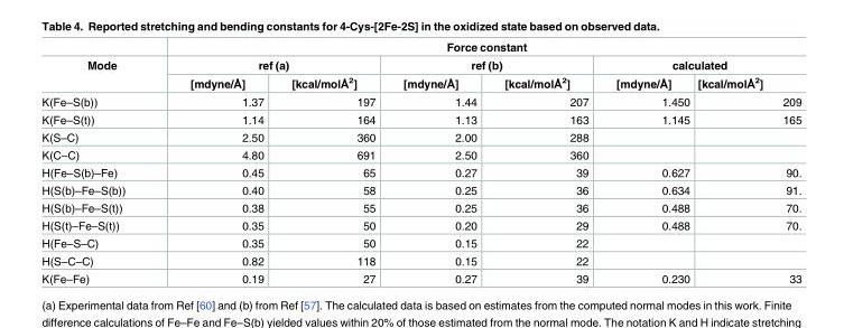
<table><thead><tr><td rowspan="3">Mode</td><td colspan="6">Force constant</td></tr><tr><td colspan="2">ref (a)</td><td colspan="2">ref (b)</td><td colspan="2">calculated</td></tr><tr><td>[mdyne/Å]</td><td>[kcal/molÅ<sup>2</sup>]</td><td>[mdyne/Å]</td><td>[kcal/molÅ<sup>2</sup>]</td><td>[mdyne/Å]</td><td>[kcal/molÅ<sup>2</sup>]</td></tr></thead><tbody><tr><td>K(Fe–S(b))</td><td>1.37</td><td>197</td><td>1.44</td><td>207</td><td>1.450</td><td>209</td></tr><tr><td>K(Fe–S(t))</td><td>1.14</td><td>164</td><td>1.13</td><td>163</td><td>1.145</td><td>165</td></tr><tr><td>K(S–C)</td><td>2.50</td><td>360</td><td>2.00</td><td>288</td><td></td><td></td></tr><tr><td>K(C–C)</td><td>4.80</td><td>691</td><td>2.50</td><td>360</td><td></td><td></td></tr><tr><td>H(Fe–S(b)–Fe)</td><td>0.45</td><td>65</td><td>0.27</td><td>39</td><td>0.627</td><td>90.</td></tr><tr><td>H(S(b)–Fe–S(b))</td><td>0.40</td><td>58</td><td>0.25</td><td>36</td><td>0.634</td><td>91.</td></tr><tr><td>H(S(b)–Fe–S(t))</td><td>0.38</td><td>55</td><td>0.25</td><td>36</td><td>0.488</td><td>70.</td></tr><tr><td>H(S(t)–Fe–S(t))</td><td>0.35</td><td>50</td><td>0.20</td><td>29</td><td>0.488</td><td>70.</td></tr><tr><td>H(Fe–S–C)</td><td>0.35</td><td>50</td><td>0.15</td><td>22</td><td></td><td></td></tr><tr><td>H(S–C–C)</td><td>0.82</td><td>118</td><td>0.15</td><td>22</td><td></td><td></td></tr><tr><td>K(Fe–Fe)</td><td>0.19</td><td>27</td><td>0.27</td><td>39</td><td>0.230</td><td>33</td></tr></tbody></table>